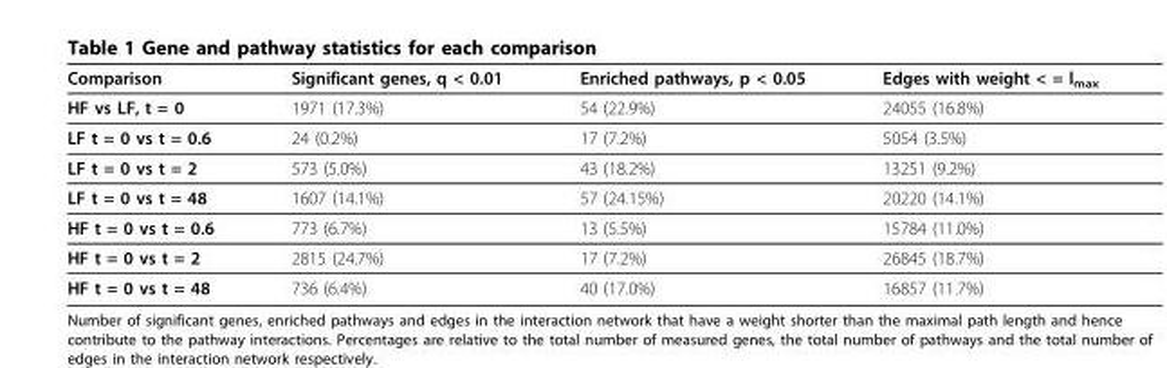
<table><thead><tr><td>Comparison</td><td>Significant genes, q &lt; 0.01</td><td>Enriched pathways, p &lt; 0.05</td><td>Edges with weight &lt; = l<sub>max</sub></td></tr></thead><tbody><tr><td>HF vs LF, t = 0</td><td>1971 (17.3%)</td><td>54 (22.9%)</td><td>24055 (16.8%)</td></tr><tr><td>LF t = 0 vs t = 0.6</td><td>24 (0.2%)</td><td>17 (7.2%)</td><td>5054 (3.5%)</td></tr><tr><td>LF t = 0 vs t = 2</td><td>573 (5.0%)</td><td>43 (18.2%)</td><td>13251 (9.2%)</td></tr><tr><td>LF t = 0 vs t = 48</td><td>1607 (14.1%)</td><td>57 (24.15%)</td><td>20220 (14.1%)</td></tr><tr><td>HF t = 0 vs t = 0.6</td><td>773 (6.7%)</td><td>13 (5.5%)</td><td>15784 (11.0%)</td></tr><tr><td>HF t = 0 vs t = 2</td><td>2815 (24.7%)</td><td>17 (7.2%)</td><td>26845 (18.7%)</td></tr><tr><td>HF t = 0 vs t = 48</td><td>736 (6.4%)</td><td>40 (17.0%)</td><td>16857 (11.7%)</td></tr></tbody></table>